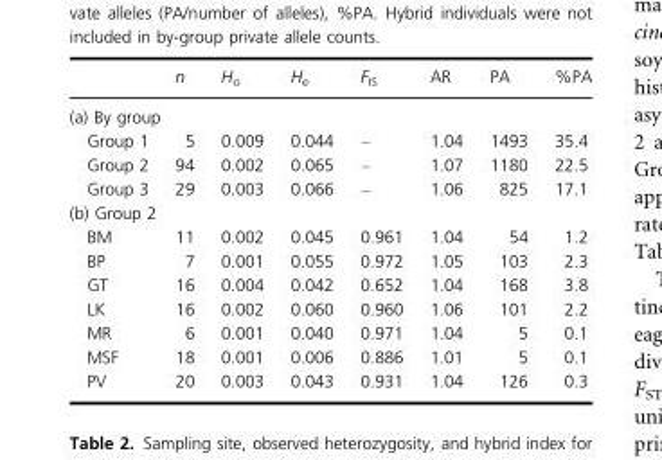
<table><thead><tr><td></td><td>n</td><td>H<sub>o</sub></td><td>H<sub>e</sub></td><td>F<sub>IS</sub></td><td>AR</td><td>PA</td><td>%PA</td></tr></thead><tbody><tr><td colspan="8">(a) By group</td></tr><tr><td>Group 1</td><td>5</td><td>0.009</td><td>0.044</td><td>–</td><td>1.04</td><td>1493</td><td>35.4</td></tr><tr><td>Group 2</td><td>94</td><td>0.002</td><td>0.065</td><td>–</td><td>1.07</td><td>1180</td><td>22.5</td></tr><tr><td>Group 3</td><td>29</td><td>0.003</td><td>0.066</td><td>–</td><td>1.06</td><td>825</td><td>17.1</td></tr><tr><td colspan="8">(b) Group 2</td></tr><tr><td>BM</td><td>11</td><td>0.002</td><td>0.045</td><td>0.961</td><td>1.04</td><td>54</td><td>1.2</td></tr><tr><td>BP</td><td>7</td><td>0.001</td><td>0.055</td><td>0.972</td><td>1.05</td><td>103</td><td>2.3</td></tr><tr><td>GT</td><td>16</td><td>0.004</td><td>0.042</td><td>0.652</td><td>1.04</td><td>168</td><td>3.8</td></tr><tr><td>LK</td><td>16</td><td>0.002</td><td>0.060</td><td>0.960</td><td>1.06</td><td>101</td><td>2.2</td></tr><tr><td>MR</td><td>6</td><td>0.001</td><td>0.040</td><td>0.971</td><td>1.04</td><td>5</td><td>0.1</td></tr><tr><td>MSF</td><td>18</td><td>0.001</td><td>0.006</td><td>0.886</td><td>1.01</td><td>5</td><td>0.1</td></tr><tr><td>PV</td><td>20</td><td>0.003</td><td>0.043</td><td>0.931</td><td>1.04</td><td>126</td><td>0.3</td></tr></tbody></table>